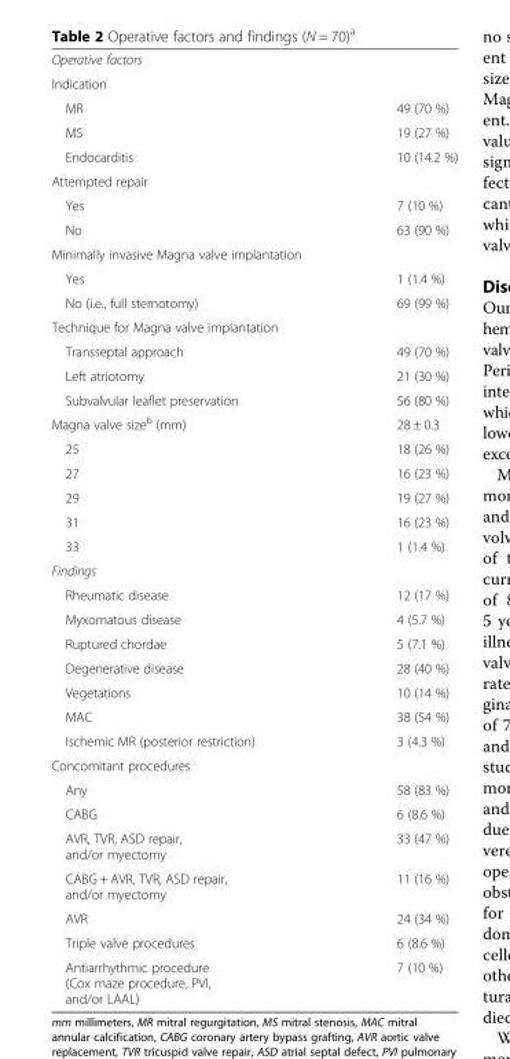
<table><tbody><tr><td colspan="2">Operative factors</td></tr><tr><td colspan="2">Indication</td></tr><tr><td>MR</td><td>49 (70 %)</td></tr><tr><td>MS</td><td>19 (27 %)</td></tr><tr><td>Endocarditis</td><td>10 (14.2 %)</td></tr><tr><td colspan="2">Attempted repair</td></tr><tr><td>Yes</td><td>7 (10 %)</td></tr><tr><td>No</td><td>63 (90 %)</td></tr><tr><td colspan="2">Minimally invasive Magna valve implantation</td></tr><tr><td>Yes</td><td>1 (1.4 %)</td></tr><tr><td>No (i.e., full sternotomy)</td><td>69 (99 %)</td></tr><tr><td colspan="2">Technique for Magna valve implantation</td></tr><tr><td>Transseptal approach</td><td>49 (70 %)</td></tr><tr><td>Left atriotomy</td><td>21 (30 %)</td></tr><tr><td>Subvalvular leaflet preservation</td><td>56 (80 %)</td></tr><tr><td>Magna valve size<sup>b</sup> (mm)</td><td>28 ± 0.3</td></tr><tr><td>25</td><td>18 (26 %)</td></tr><tr><td>27</td><td>16 (23 %)</td></tr><tr><td>29</td><td>19 (27 %)</td></tr><tr><td>31</td><td>16 (23 %)</td></tr><tr><td>33</td><td>1 (1.4 %)</td></tr><tr><td colspan="2">Findings</td></tr><tr><td>Rheumatic disease</td><td>12 (17 %)</td></tr><tr><td>Myxomatous disease</td><td>4 (5.7 %)</td></tr><tr><td>Ruptured chordae</td><td>5 (7.1 %)</td></tr><tr><td>Degenerative disease</td><td>28 (40 %)</td></tr><tr><td>Vegetations</td><td>10 (14 %)</td></tr><tr><td>MAC</td><td>38 (54 %)</td></tr><tr><td>Ischemic MR (posterior restriction)</td><td>3 (4.3 %)</td></tr><tr><td colspan="2">Concomitant procedures</td></tr><tr><td>Any</td><td>58 (83 %)</td></tr><tr><td>CABG</td><td>6 (8.6 %)</td></tr><tr><td>AVR, TVR, ASD repair, and/or myectomy</td><td>33 (47 %)</td></tr><tr><td>CABG + AVR, TVR, ASD repair, and/or myectomy</td><td>11 (16 %)</td></tr><tr><td>AVR</td><td>24 (34 %)</td></tr><tr><td>Triple valve procedures</td><td>6 (8.6 %)</td></tr><tr><td>Antiarrhythmic procedure (Cox maze procedure, PVI, and/or LAAL)</td><td>7 (10 %)</td></tr></tbody></table>